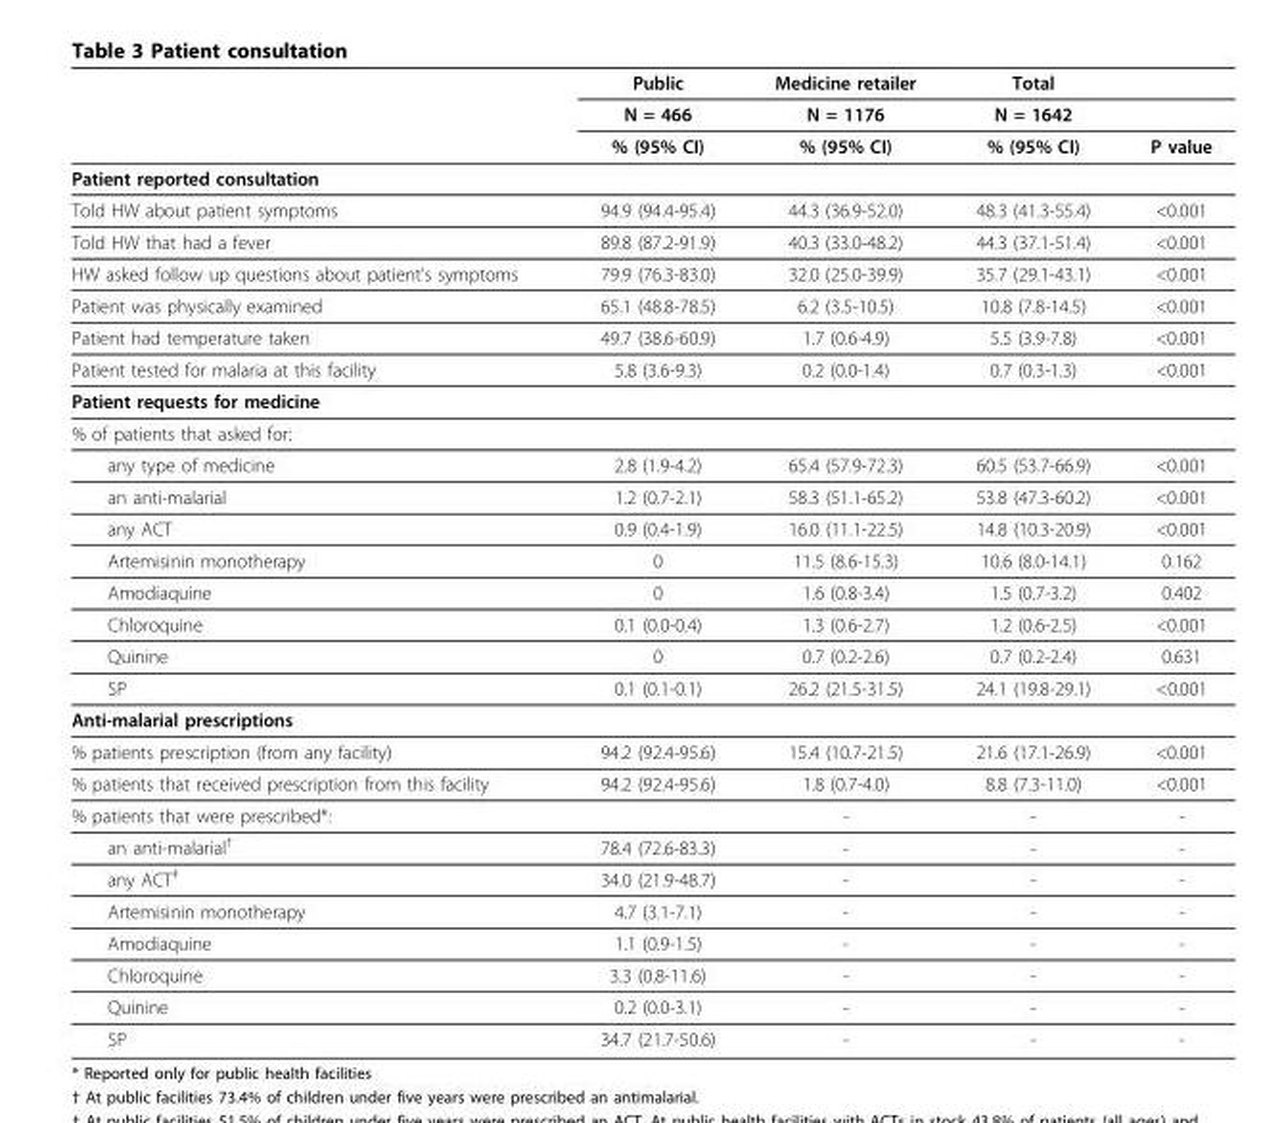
<table><thead><tr><td rowspan="3"></td><td rowspan="3">Public N = 466 % (95% CI)</td><td rowspan="3">Medicine retailer N = 1176 % (95% CI)</td><td rowspan="3">Total N = 1642 % (95% CI)</td><td rowspan="3">P value</td></tr><tr></tr><tr></tr></thead><tbody><tr><td colspan="5">Patient reported consultation</td></tr><tr><td>Told HW about patient symptoms</td><td>94.9 (94.4-95.4)</td><td>44.3 (36.9-52.0)</td><td>48.3 (41.3-55.4)</td><td>&lt;0.001</td></tr><tr><td>Told HW that had a fever</td><td>89.8 (87.2-91.9)</td><td>40.3 (33.0-48.2)</td><td>44.3 (37.1-51.4)</td><td>&lt;0.001</td></tr><tr><td>HW asked follow up questions about patient’s symptoms</td><td>79.9 (76.3-83.0)</td><td>32.0 (25.0-39.9)</td><td>35.7 (29.1-43.1)</td><td>&lt;0.001</td></tr><tr><td>Patient was physically examined</td><td>65.1 (48.8-78.5)</td><td>6.2 (3.5-10.5)</td><td>10.8 (7.8-14.5)</td><td>&lt;0.001</td></tr><tr><td>Patient had temperature taken</td><td>49.7 (38.6-60.9)</td><td>1.7 (0.6-4.9)</td><td>5.5 (3.9-7.8)</td><td>&lt;0.001</td></tr><tr><td>Patient tested for malaria at this facility</td><td>5.8 (3.6-9.3)</td><td>0.2 (0.0-1.4)</td><td>0.7 (0.3-1.3)</td><td>&lt;0.001</td></tr><tr><td colspan="5">Patient requests for medicine</td></tr><tr><td colspan="5">% of patients that asked for:</td></tr><tr><td>any type of medicine</td><td>2.8 (1.9-4.2)</td><td>65.4 (57.9-72.3)</td><td>60.5 (53.7-66.9)</td><td>&lt;0.001</td></tr><tr><td>an anti-malarial</td><td>1.2 (0.7-2.1)</td><td>58.3 (51.1-65.2)</td><td>53.8 (47.3-60.2)</td><td>&lt;0.001</td></tr><tr><td>any ACT</td><td>0.9 (0.4-1.9)</td><td>16.0 (11.1-22.5)</td><td>14.8 (10.3-20.9)</td><td>&lt;0.001</td></tr><tr><td>Artemisinin monotherapy</td><td>0</td><td>11.5 (8.6-15.3)</td><td>10.6 (8.0-14.1)</td><td>0.162</td></tr><tr><td>Amodiaquine</td><td>0</td><td>1.6 (0.8-3.4)</td><td>1.5 (0.7-3.2)</td><td>0.402</td></tr><tr><td>Chloroquine</td><td>0.1 (0.0-0.4)</td><td>1.3 (0.6-2.7)</td><td>1.2 (0.6-2.5)</td><td>&lt;0.001</td></tr><tr><td>Quinine</td><td>0</td><td>0.7 (0.2-2.6)</td><td>0.7 (0.2-2.4)</td><td>0.631</td></tr><tr><td>SP</td><td>0.1 (0.1-0.1)</td><td>26.2 (21.5-31.5)</td><td>24.1 (19.8-29.1)</td><td>&lt;0.001</td></tr><tr><td colspan="5">Anti-malarial prescriptions</td></tr><tr><td>% patients prescription (from any facility)</td><td>94.2 (92.4-95.6)</td><td>15.4 (10.7-21.5)</td><td>21.6 (17.1-26.9)</td><td>&lt;0.001</td></tr><tr><td>% patients that received prescription from this facility</td><td>94.2 (92.4-95.6)</td><td>1.8 (0.7-4.0)</td><td>8.8 (7.3-11.0)</td><td>&lt;0.001</td></tr><tr><td>% patients that were prescribed*:</td><td></td><td>-</td><td>-</td><td>-</td></tr><tr><td>an anti-malarial†</td><td>78.4 (72.6-83.3)</td><td>-</td><td>-</td><td>-</td></tr><tr><td>any ACT‡</td><td>34.0 (21.9-48.7)</td><td>-</td><td>-</td><td>-</td></tr><tr><td>Artemisinin monotherapy</td><td>4.7 (3.1-7.1)</td><td>-</td><td>-</td><td>-</td></tr><tr><td>Amodiaquine</td><td>1.1 (0.9-1.5)</td><td>-</td><td>-</td><td>-</td></tr><tr><td>Chloroquine</td><td>3.3 (0.8-11.6)</td><td>-</td><td>-</td><td>-</td></tr><tr><td>Quinine</td><td>0.2 (0.0-3.1)</td><td>-</td><td>-</td><td>-</td></tr><tr><td>SP</td><td>34.7 (21.7-50.6)</td><td>-</td><td>-</td><td>-</td></tr></tbody></table>